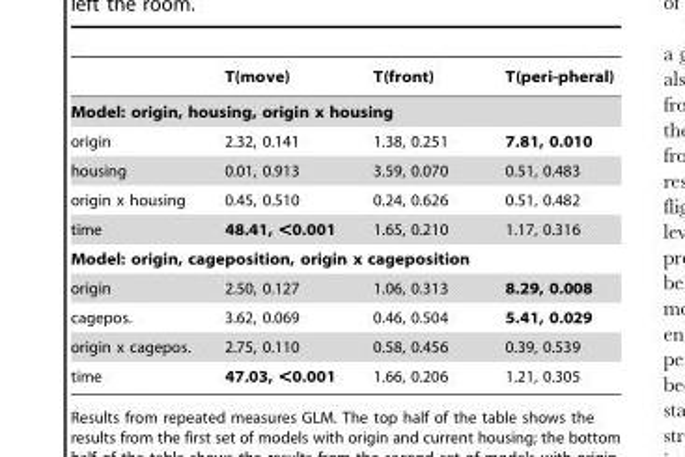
<table><thead><tr><td></td><td>T(move)</td><td>T(front)</td><td>T(peri-pheral)</td></tr></thead><tbody><tr><td colspan="4">Model: origin, housing, origin x housing</td></tr><tr><td>origin</td><td>2.32, 0.141</td><td>1.38, 0.251</td><td>7.81, 0.010</td></tr><tr><td>housing</td><td>0.01, 0.913</td><td>3.59, 0.070</td><td>0.51, 0.483</td></tr><tr><td>origin x housing</td><td>0.45, 0.510</td><td>0.24, 0.626</td><td>0.51, 0.482</td></tr><tr><td>time</td><td>48.41, &lt;0.001</td><td>1.65, 0.210</td><td>1.17, 0.316</td></tr><tr><td colspan="4">Model: origin, cageposition, origin x cageposition</td></tr><tr><td>origin</td><td>2.50, 0.127</td><td>1.06, 0.313</td><td>8.29, 0.008</td></tr><tr><td>cagepos.</td><td>3.62, 0.069</td><td>0.46, 0.504</td><td>5.41, 0.029</td></tr><tr><td>origin x cagepos.</td><td>2.75, 0.110</td><td>0.58, 0.456</td><td>0.39, 0.539</td></tr><tr><td>time</td><td>47.03, &lt;0.001</td><td>1.66, 0.206</td><td>1.21, 0.305</td></tr></tbody></table>